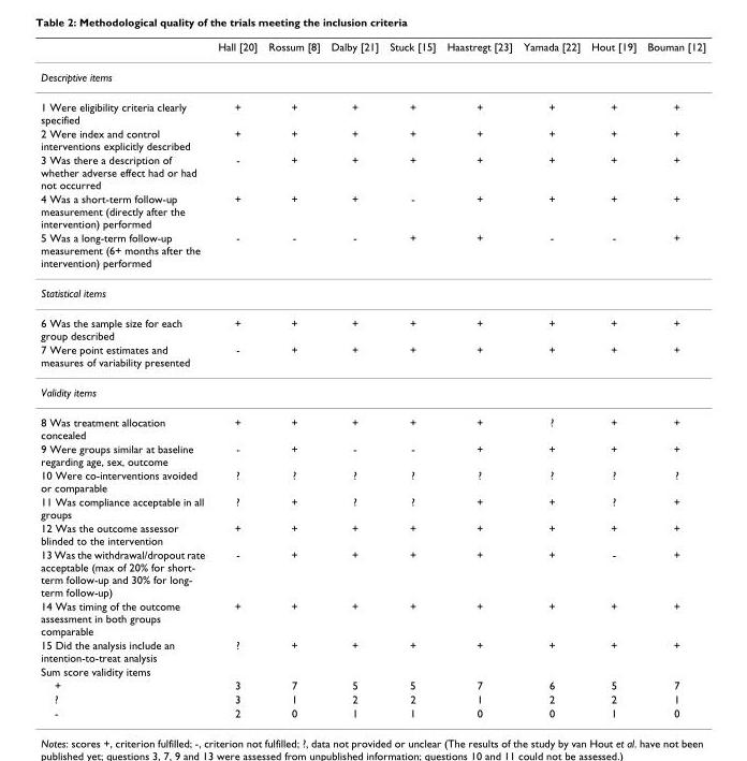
<table><thead><tr><td></td><td>Hall [20]</td><td>Rossum [8]</td><td>Dalby [21]</td><td>Stuck [15]</td><td>Haastregt [23]</td><td>Yamada [22]</td><td>Hout [19]</td><td>Bouman [12]</td></tr></thead><tbody><tr><td colspan="9">Descriptive items</td></tr><tr><td>1 Were eligibility criteria clearly specified</td><td>+</td><td>+</td><td>+</td><td>+</td><td>+</td><td>+</td><td>+</td><td>+</td></tr><tr><td>2 Were index and control interventions explicitly described</td><td>+</td><td>+</td><td>+</td><td>+</td><td>+</td><td>+</td><td>+</td><td>+</td></tr><tr><td>3 Was there a description of whether adverse effect had or had not occurred</td><td>-</td><td>+</td><td>+</td><td>+</td><td>+</td><td>+</td><td>+</td><td>+</td></tr><tr><td>4 Was a short-term follow-up measurement (directly after the intervention) performed</td><td>+</td><td>+</td><td>+</td><td>-</td><td>+</td><td>+</td><td>+</td><td>+</td></tr><tr><td>5 Was a long-term follow-up measurement (6+ months after the intervention) performed</td><td>-</td><td>-</td><td>-</td><td>+</td><td>+</td><td>-</td><td>-</td><td>+</td></tr><tr><td colspan="9">Statistical items</td></tr><tr><td>6 Was the sample size for each group described</td><td>+</td><td>+</td><td>+</td><td>+</td><td>+</td><td>+</td><td>+</td><td>+</td></tr><tr><td>7 Were point estimates and measures of variability presented</td><td>-</td><td>+</td><td>+</td><td>+</td><td>+</td><td>+</td><td>+</td><td>+</td></tr><tr><td colspan="9">Validity items</td></tr><tr><td>8 Was treatment allocation concealed</td><td>+</td><td>+</td><td>+</td><td>+</td><td>+</td><td>?</td><td>+</td><td>+</td></tr><tr><td>9 Were groups similar at baseline regarding age, sex, outcome</td><td>-</td><td>+</td><td>-</td><td>-</td><td>+</td><td>+</td><td>+</td><td>+</td></tr><tr><td>10 Were co-interventions avoided or comparable</td><td>?</td><td>?</td><td>?</td><td>?</td><td>?</td><td>?</td><td>?</td><td>?</td></tr><tr><td>11 Was compliance acceptable in all groups</td><td>?</td><td>+</td><td>?</td><td>?</td><td>+</td><td>+</td><td>?</td><td>+</td></tr><tr><td>12 Was the outcome assessor blinded to the intervention</td><td>+</td><td>+</td><td>+</td><td>+</td><td>+</td><td>+</td><td>+</td><td>+</td></tr><tr><td>13 Was the withdrawal/dropout rate acceptable (max of 20% for short- term follow-up and 30% for long- term follow-up)</td><td>-</td><td>+</td><td>+</td><td>+</td><td>+</td><td>+</td><td>-</td><td>+</td></tr><tr><td>14 Was timing of the outcome assessment in both groups comparable</td><td>+</td><td>+</td><td>+</td><td>+</td><td>+</td><td>+</td><td>+</td><td>+</td></tr><tr><td>15 Did the analysis include an intention-to-treat analysis</td><td>?</td><td>+</td><td>+</td><td>+</td><td>+</td><td>+</td><td>+</td><td>+</td></tr><tr><td colspan="9">Sum score validity items</td></tr><tr><td>+</td><td>3</td><td>7</td><td>5</td><td>5</td><td>7</td><td>6</td><td>5</td><td>7</td></tr><tr><td>?</td><td>3</td><td>1</td><td>2</td><td>2</td><td>1</td><td>2</td><td>2</td><td>1</td></tr><tr><td>-</td><td>2</td><td>0</td><td>1</td><td>1</td><td>0</td><td>0</td><td>1</td><td>0</td></tr></tbody></table>